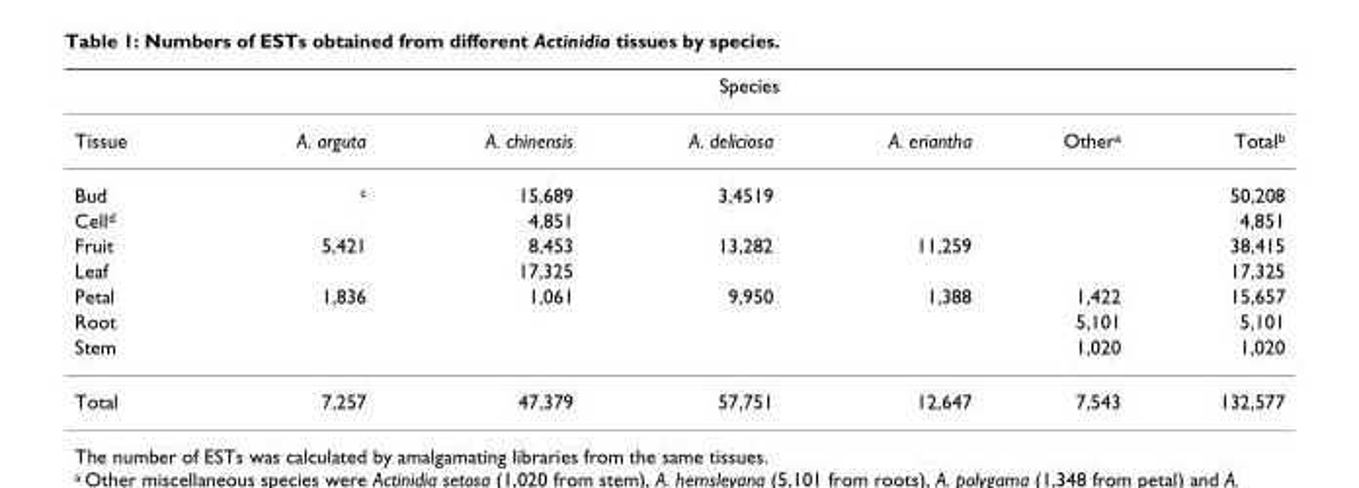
<table><thead><tr><td rowspan="2">Tissue</td><td colspan="6">Species</td></tr><tr><td>A. arguta</td><td>A. chinensis</td><td>A. deliciosa</td><td>A. eriantha</td><td>Other<sup>a</sup></td><td>Total<sup>b</sup></td></tr></thead><tbody><tr><td>Bud</td><td><sup>c</sup></td><td>15,689</td><td>3,4519</td><td></td><td></td><td>50,208</td></tr><tr><td>Cell<sup>d</sup></td><td></td><td>4,851</td><td></td><td></td><td></td><td>4,851</td></tr><tr><td>Fruit</td><td>5,421</td><td>8,453</td><td>13,282</td><td>11,259</td><td></td><td>38,415</td></tr><tr><td>Leaf</td><td></td><td>17,325</td><td></td><td></td><td></td><td>17,325</td></tr><tr><td>Petal</td><td>1,836</td><td>1,061</td><td>9,950</td><td>1,388</td><td>1,422</td><td>15,657</td></tr><tr><td>Root</td><td></td><td></td><td></td><td></td><td>5,101</td><td>5,101</td></tr><tr><td>Stem</td><td></td><td></td><td></td><td></td><td>1,020</td><td>1,020</td></tr><tr><td>Total</td><td>7,257</td><td>47,379</td><td>57,751</td><td>12,647</td><td>7,543</td><td>132,577</td></tr></tbody></table>